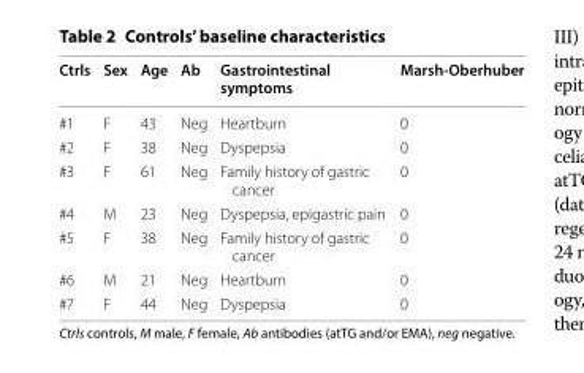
<table><thead><tr><td>Ctrls</td><td>Sex</td><td>Age</td><td>Ab</td><td>Gastrointestinal symptoms</td><td>Marsh‑Oberhuber</td></tr></thead><tbody><tr><td>#1</td><td>F</td><td>43</td><td>Neg</td><td>Heartburn</td><td>0</td></tr><tr><td>#2</td><td>F</td><td>38</td><td>Neg</td><td>Dyspepsia</td><td>0</td></tr><tr><td>#3</td><td>F</td><td>61</td><td>Neg</td><td>Family history of gastric cancer</td><td>0</td></tr><tr><td>#4</td><td>M</td><td>23</td><td>Neg</td><td>Dyspepsia, epigastric pain</td><td>0</td></tr><tr><td>#5</td><td>F</td><td>38</td><td>Neg</td><td>Family history of gastric cancer</td><td>0</td></tr><tr><td>#6</td><td>M</td><td>21</td><td>Neg</td><td>Heartburn</td><td>0</td></tr><tr><td>#7</td><td>F</td><td>44</td><td>Neg</td><td>Dyspepsia</td><td>0</td></tr></tbody></table>